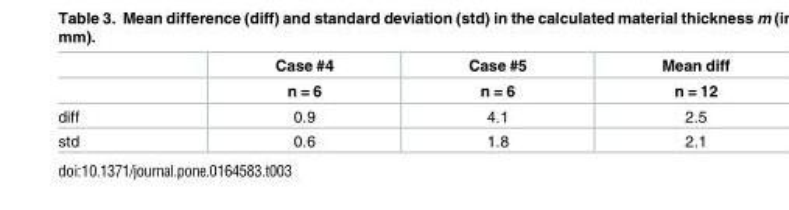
<table><thead><tr><td rowspan="2"></td><td rowspan="2">Case #4 n = 6</td><td rowspan="2">Case #5 n = 6</td><td rowspan="2">Mean diff n = 12</td></tr><tr></tr></thead><tbody><tr><td>diff</td><td>0.9</td><td>4.1</td><td>2.5</td></tr><tr><td>std</td><td>0.6</td><td>1.8</td><td>2.1</td></tr></tbody></table>